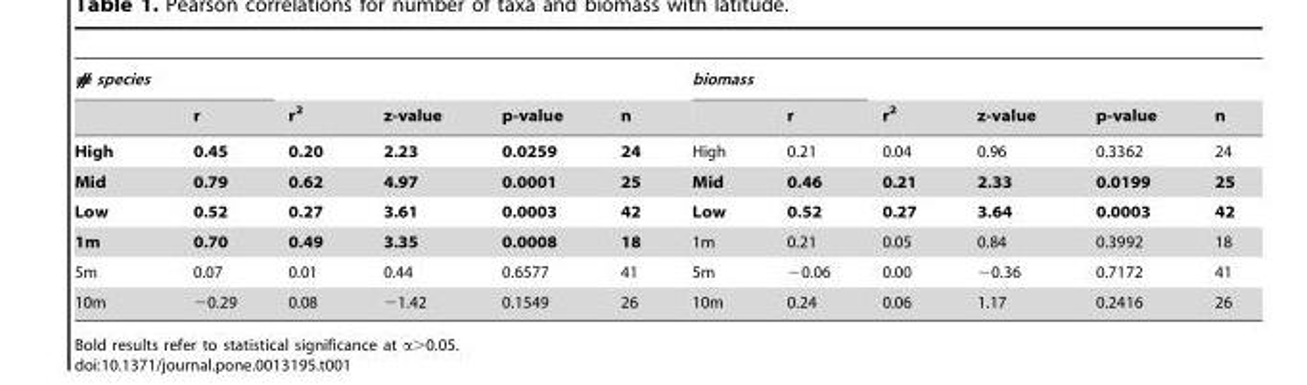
<table><thead><tr><td colspan="2"># species</td><td rowspan="2">r<sup>2</sup></td><td rowspan="2">z-value</td><td rowspan="2">p-value</td><td rowspan="2">n</td><td colspan="2">biomass</td><td rowspan="2">r<sup>2</sup></td><td rowspan="2">z-value</td><td rowspan="2">p-value</td><td rowspan="2">n</td></tr><tr><td></td><td>r</td><td></td><td>r</td></tr></thead><tbody><tr><td>High</td><td>0.45</td><td>0.20</td><td>2.23</td><td>0.0259</td><td>24</td><td>High</td><td>0.21</td><td>0.04</td><td>0.96</td><td>0.3362</td><td>24</td></tr><tr><td>Mid</td><td>0.79</td><td>0.62</td><td>4.97</td><td>0.0001</td><td>25</td><td>Mid</td><td>0.46</td><td>0.21</td><td>2.33</td><td>0.0199</td><td>25</td></tr><tr><td>Low</td><td>0.52</td><td>0.27</td><td>3.61</td><td>0.0003</td><td>42</td><td>Low</td><td>0.52</td><td>0.27</td><td>3.64</td><td>0.0003</td><td>42</td></tr><tr><td>1m</td><td>0.70</td><td>0.49</td><td>3.35</td><td>0.0008</td><td>18</td><td>1m</td><td>0.21</td><td>0.05</td><td>0.84</td><td>0.3992</td><td>18</td></tr><tr><td>5m</td><td>0.07</td><td>0.01</td><td>0.44</td><td>0.6577</td><td>41</td><td>5m</td><td>−0.06</td><td>0.00</td><td>−0.36</td><td>0.7172</td><td>41</td></tr><tr><td>10m</td><td>−0.29</td><td>0.08</td><td>−1.42</td><td>0.1549</td><td>26</td><td>10m</td><td>0.24</td><td>0.06</td><td>1.17</td><td>0.2416</td><td>26</td></tr></tbody></table>